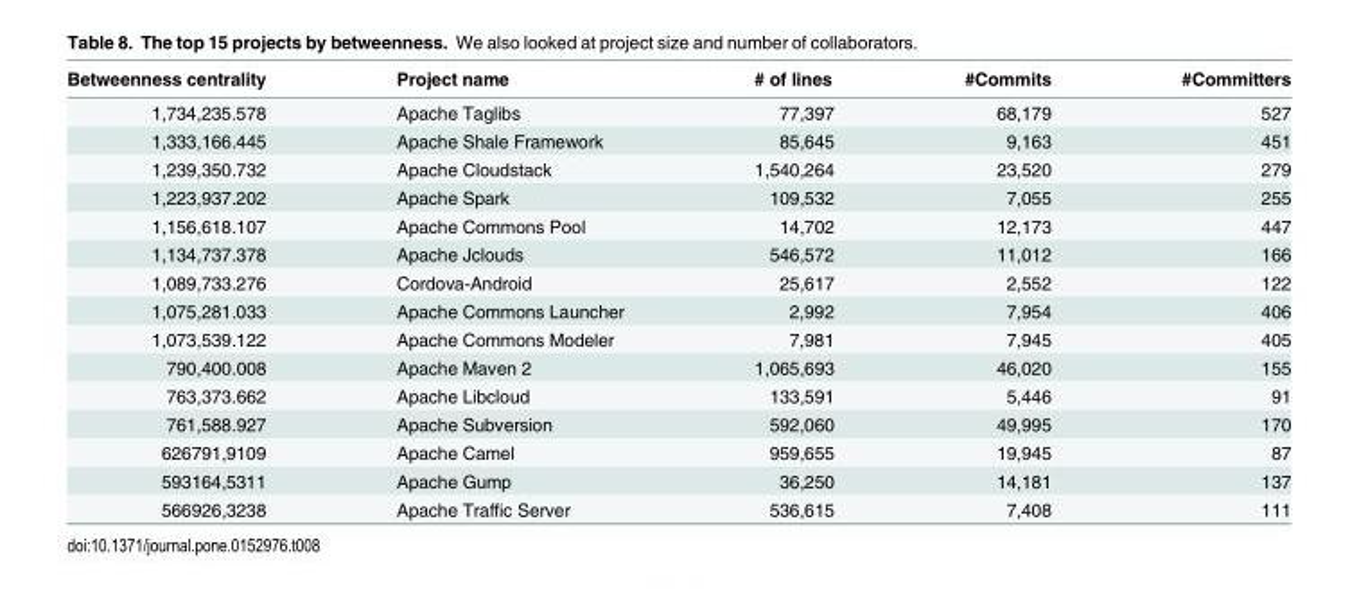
<table><thead><tr><td>Betweenness centrality</td><td>Project name</td><td># of lines</td><td>#Commits</td><td>#Committers</td></tr></thead><tbody><tr><td>1,734,235.578</td><td>Apache Taglibs</td><td>77,397</td><td>68,179</td><td>527</td></tr><tr><td>1,333,166.445</td><td>Apache Shale Framework</td><td>85,645</td><td>9,163</td><td>451</td></tr><tr><td>1,239,350.732</td><td>Apache Cloudstack</td><td>1,540,264</td><td>23,520</td><td>279</td></tr><tr><td>1,223,937.202</td><td>Apache Spark</td><td>109,532</td><td>7,055</td><td>255</td></tr><tr><td>1,156,618.107</td><td>Apache Commons Pool</td><td>14,702</td><td>12,173</td><td>447</td></tr><tr><td>1,134,737.378</td><td>Apache Jclouds</td><td>546,572</td><td>11,012</td><td>166</td></tr><tr><td>1,089,733.276</td><td>Cordova-Android</td><td>25,617</td><td>2,552</td><td>122</td></tr><tr><td>1,075,281.033</td><td>Apache Commons Launcher</td><td>2,992</td><td>7,954</td><td>406</td></tr><tr><td>1,073,539.122</td><td>Apache Commons Modeler</td><td>7,981</td><td>7,945</td><td>405</td></tr><tr><td>790,400.008</td><td>Apache Maven 2</td><td>1,065,693</td><td>46,020</td><td>155</td></tr><tr><td>763,373.662</td><td>Apache Libcloud</td><td>133,591</td><td>5,446</td><td>91</td></tr><tr><td>761,588.927</td><td>Apache Subversion</td><td>592,060</td><td>49,995</td><td>170</td></tr><tr><td>626791,9109</td><td>Apache Camel</td><td>959,655</td><td>19,945</td><td>87</td></tr><tr><td>593164,5311</td><td>Apache Gump</td><td>36,250</td><td>14,181</td><td>137</td></tr><tr><td>566926,3238</td><td>Apache Traffic Server</td><td>536,615</td><td>7,408</td><td>111</td></tr></tbody></table>